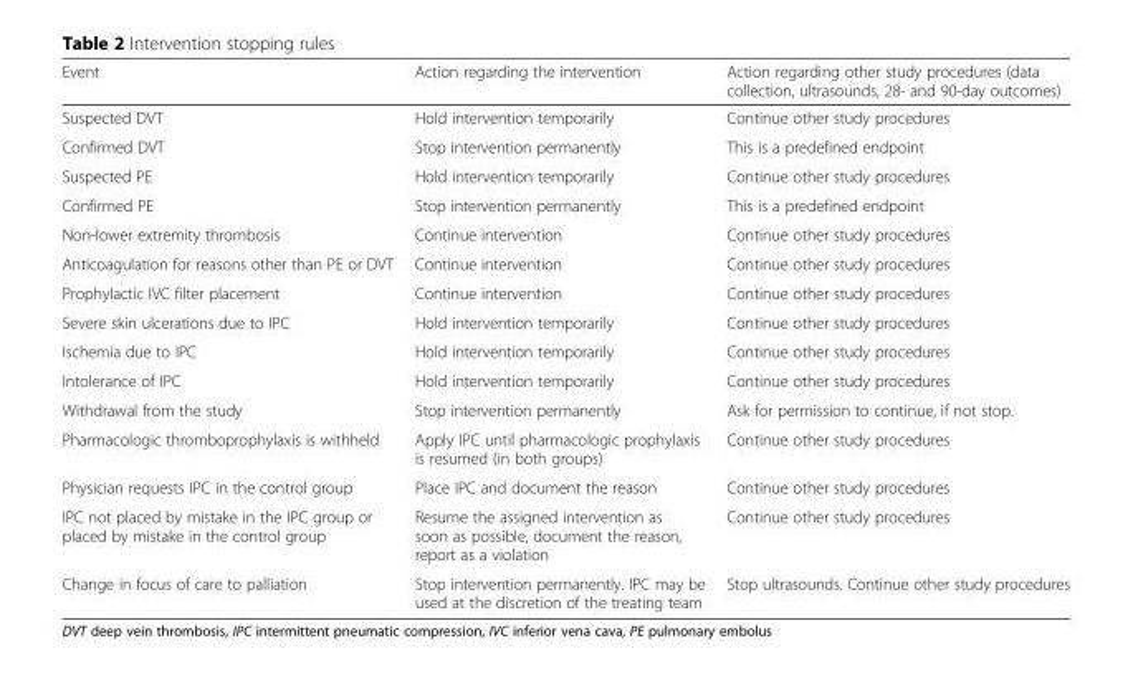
<table><thead><tr><td>Event</td><td>Action regarding the intervention</td><td>Action regarding other study procedures (data collection, ultrasounds, 28- and 90-day outcomes)</td></tr></thead><tbody><tr><td>Suspected DVT</td><td>Hold intervention temporarily</td><td>Continue other study procedures</td></tr><tr><td>Confirmed DVT</td><td>Stop intervention permanently</td><td>This is a predefined endpoint</td></tr><tr><td>Suspected PE</td><td>Hold intervention temporarily</td><td>Continue other study procedures</td></tr><tr><td>Confirmed PE</td><td>Stop intervention permanently</td><td>This is a predefined endpoint</td></tr><tr><td>Non-lower extremity thrombosis</td><td>Continue intervention</td><td>Continue other study procedures</td></tr><tr><td>Anticoagulation for reasons other than PE or DVT</td><td>Continue intervention</td><td>Continue other study procedures</td></tr><tr><td>Prophylactic IVC filter placement</td><td>Continue intervention</td><td>Continue other study procedures</td></tr><tr><td>Severe skin ulcerations due to IPC</td><td>Hold intervention temporarily</td><td>Continue other study procedures</td></tr><tr><td>Ischemia due to IPC</td><td>Hold intervention temporarily</td><td>Continue other study procedures</td></tr><tr><td>Intolerance of IPC</td><td>Hold intervention temporarily</td><td>Continue other study procedures</td></tr><tr><td>Withdrawal from the study</td><td>Stop intervention permanently</td><td>Ask for permission to continue, if not stop.</td></tr><tr><td>Pharmacologic thromboprophylaxis is withheld</td><td>Apply IPC until pharmacologic prophylaxis is resumed (in both groups)</td><td>Continue other study procedures</td></tr><tr><td>Physician requests IPC in the control group</td><td>Place IPC and document the reason</td><td>Continue other study procedures</td></tr><tr><td>IPC not placed by mistake in the IPC group or placed by mistake in the control group</td><td>Resume the assigned intervention as soon as possible, document the reason, report as a violation</td><td>Continue other study procedures</td></tr><tr><td>Change in focus of care to palliation</td><td>Stop intervention permanently. IPC may be used at the discretion of the treating team</td><td>Stop ultrasounds. Continue other study procedures</td></tr></tbody></table>